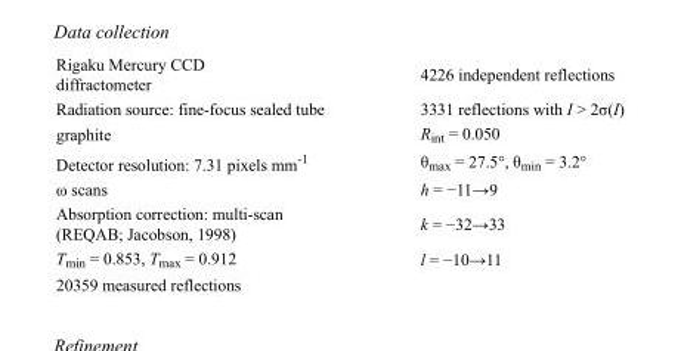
<table><tbody><tr><td>Rigaku Mercury CCD diffractometer</td><td>4226 independent reflections</td></tr><tr><td>Radiation source: fine-focus sealed tube</td><td>3331 reflections with I &gt; 2σ(I)</td></tr><tr><td>graphite</td><td>R<sub>int</sub> = 0.050</td></tr><tr><td>Detector resolution: 7.31 pixels mm<sup>-1</sup></td><td>θ<sub>max</sub> = 27.5°, θ<sub>min</sub> = 3.2°</td></tr><tr><td>ω scans</td><td>h = −11→9</td></tr><tr><td>Absorption correction: multi-scan (REQAB; Jacobson, 1998)</td><td>k = −32→33</td></tr><tr><td>T<sub>min</sub> = 0.853, T<sub>max</sub> = 0.912</td><td>l = −10→11</td></tr><tr><td>20359 measured reflections</td><td></td></tr></tbody></table>